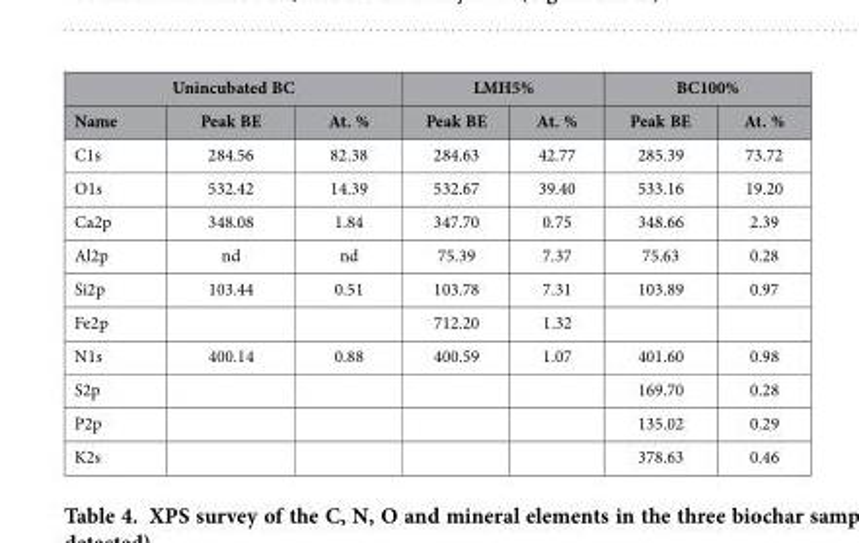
<table><thead><tr><td colspan="3">Unincubated BC</td><td colspan="2">LMH5%</td><td colspan="2">BC100%</td></tr><tr><td>Name</td><td>Peak BE</td><td>At. %</td><td>Peak BE</td><td>At. %</td><td>Peak BE</td><td>At. %</td></tr></thead><tbody><tr><td>C1s</td><td>284.56</td><td>82.38</td><td>284.63</td><td>42.77</td><td>285.39</td><td>73.72</td></tr><tr><td>O1s</td><td>532.42</td><td>14.39</td><td>532.67</td><td>39.40</td><td>533.16</td><td>19.20</td></tr><tr><td>Ca2p</td><td>348.08</td><td>1.84</td><td>347.70</td><td>0.75</td><td>348.66</td><td>2.39</td></tr><tr><td>Al2p</td><td>nd</td><td>nd</td><td>75.39</td><td>7.37</td><td>75.63</td><td>0.28</td></tr><tr><td>Si2p</td><td>103.44</td><td>0.51</td><td>103.78</td><td>7.31</td><td>103.89</td><td>0.97</td></tr><tr><td>Fe2p</td><td></td><td></td><td>712.20</td><td>1.32</td><td></td><td></td></tr><tr><td>N1s</td><td>400.14</td><td>0.88</td><td>400.59</td><td>1.07</td><td>401.60</td><td>0.98</td></tr><tr><td>S2p</td><td></td><td></td><td></td><td></td><td>169.70</td><td>0.28</td></tr><tr><td>P2p</td><td></td><td></td><td></td><td></td><td>135.02</td><td>0.29</td></tr><tr><td>K2s</td><td></td><td></td><td></td><td></td><td>378.63</td><td>0.46</td></tr></tbody></table>